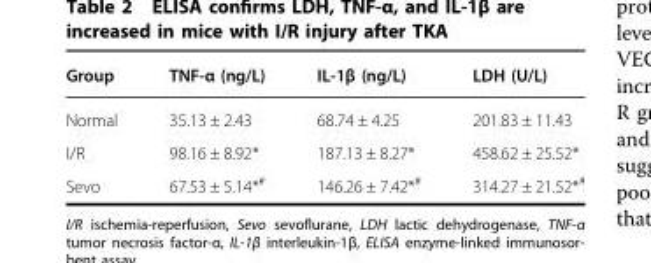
<table><thead><tr><td>Group</td><td>TNF-α (ng/L)</td><td>IL-1β (ng/L)</td><td>LDH (U/L)</td></tr></thead><tbody><tr><td>Normal</td><td>35.13 ± 2.43</td><td>68.74 ± 4.25</td><td>201.83 ± 11.43</td></tr><tr><td>I/R</td><td>98.16 ± 8.92*</td><td>187.13 ± 8.27*</td><td>458.62 ± 25.52*</td></tr><tr><td>Sevo</td><td>67.53 ± 5.14*#</td><td>146.26 ± 7.42*#</td><td>314.27 ± 21.52*#</td></tr></tbody></table>